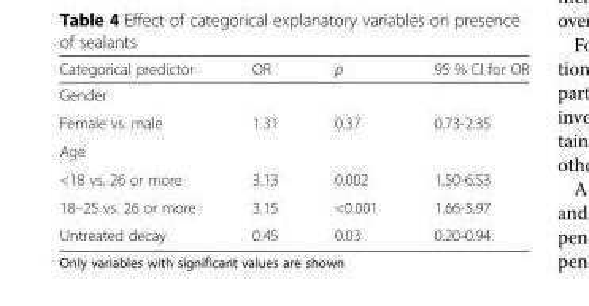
<table><thead><tr><td>Categorical predictor</td><td>OR</td><td>p</td><td>95 % CI for OR</td></tr></thead><tbody><tr><td colspan="4">Gender</td></tr><tr><td>Female vs. male</td><td>1.31</td><td>0.37</td><td>0.73-2.35</td></tr><tr><td colspan="4">Age</td></tr><tr><td>&lt;18 vs. 26 or more</td><td>3.13</td><td>0.002</td><td>1.50-6.53</td></tr><tr><td>18–25 vs. 26 or more</td><td>3.15</td><td>&lt;0.001</td><td>1.66-5.97</td></tr><tr><td>Untreated decay</td><td>0.45</td><td>0.03</td><td>0.20-0.94</td></tr></tbody></table>